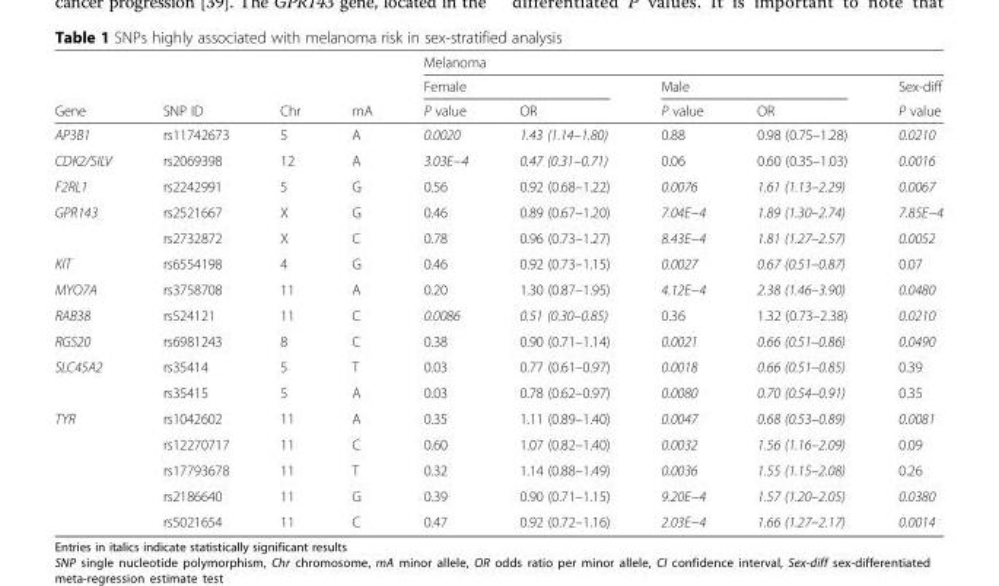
<table><thead><tr><td rowspan="3">Gene</td><td rowspan="3">SNP ID</td><td rowspan="3">Chr</td><td rowspan="3">mA</td><td colspan="5">Melanoma</td></tr><tr><td colspan="2">Female</td><td colspan="2">Male</td><td rowspan="2">Sex-diff P value</td></tr><tr><td>P value</td><td>OR</td><td>P value</td><td>OR</td></tr></thead><tbody><tr><td>AP3B1</td><td>rs11742673</td><td>5</td><td>A</td><td>0.0020</td><td>1.43 (1.14–1.80)</td><td>0.88</td><td>0.98 (0.75–1.28)</td><td>0.0210</td></tr><tr><td>CDK2/SILV</td><td>rs2069398</td><td>12</td><td>A</td><td>3.03E−4</td><td>0.47 (0.31–0.71)</td><td>0.06</td><td>0.60 (0.35–1.03)</td><td>0.0016</td></tr><tr><td>F2RL1</td><td>rs2242991</td><td>5</td><td>G</td><td>0.56</td><td>0.92 (0.68–1.22)</td><td>0.0076</td><td>1.61 (1.13–2.29)</td><td>0.0067</td></tr><tr><td rowspan="2">GPR143</td><td>rs2521667</td><td>X</td><td>G</td><td>0.46</td><td>0.89 (0.67–1.20)</td><td>7.04E−4</td><td>1.89 (1.30–2.74)</td><td>7.85E−4</td></tr><tr><td>rs2732872</td><td>X</td><td>C</td><td>0.78</td><td>0.96 (0.73–1.27)</td><td>8.43E−4</td><td>1.81 (1.27–2.57)</td><td>0.0052</td></tr><tr><td>KIT</td><td>rs6554198</td><td>4</td><td>G</td><td>0.46</td><td>0.92 (0.73–1.15)</td><td>0.0027</td><td>0.67 (0.51–0.87)</td><td>0.07</td></tr><tr><td>MYO7A</td><td>rs3758708</td><td>11</td><td>A</td><td>0.20</td><td>1.30 (0.87–1.95)</td><td>4.12E−4</td><td>2.38 (1.46–3.90)</td><td>0.0480</td></tr><tr><td>RAB38</td><td>rs524121</td><td>11</td><td>C</td><td>0.0086</td><td>0.51 (0.30–0.85)</td><td>0.36</td><td>1.32 (0.73–2.38)</td><td>0.0210</td></tr><tr><td>RGS20</td><td>rs6981243</td><td>8</td><td>C</td><td>0.38</td><td>0.90 (0.71–1.14)</td><td>0.0021</td><td>0.66 (0.51–0.86)</td><td>0.0490</td></tr><tr><td rowspan="2">SLC45A2</td><td>rs35414</td><td>5</td><td>T</td><td>0.03</td><td>0.77 (0.61–0.97)</td><td>0.0018</td><td>0.66 (0.51–0.85)</td><td>0.39</td></tr><tr><td>rs35415</td><td>5</td><td>A</td><td>0.03</td><td>0.78 (0.62–0.97)</td><td>0.0080</td><td>0.70 (0.54–0.91)</td><td>0.35</td></tr><tr><td rowspan="5">TYR</td><td>rs1042602</td><td>11</td><td>A</td><td>0.35</td><td>1.11 (0.89–1.40)</td><td>0.0047</td><td>0.68 (0.53–0.89)</td><td>0.0081</td></tr><tr><td>rs12270717</td><td>11</td><td>C</td><td>0.60</td><td>1.07 (0.82–1.40)</td><td>0.0032</td><td>1.56 (1.16–2.09)</td><td>0.09</td></tr><tr><td>rs17793678</td><td>11</td><td>T</td><td>0.32</td><td>1.14 (0.88–1.49)</td><td>0.0036</td><td>1.55 (1.15–2.08)</td><td>0.26</td></tr><tr><td>rs2186640</td><td>11</td><td>G</td><td>0.39</td><td>0.90 (0.71–1.15)</td><td>9.20E−4</td><td>1.57 (1.20–2.05)</td><td>0.0380</td></tr><tr><td>rs5021654</td><td>11</td><td>C</td><td>0.47</td><td>0.92 (0.72–1.16)</td><td>2.03E−4</td><td>1.66 (1.27–2.17)</td><td>0.0014</td></tr></tbody></table>